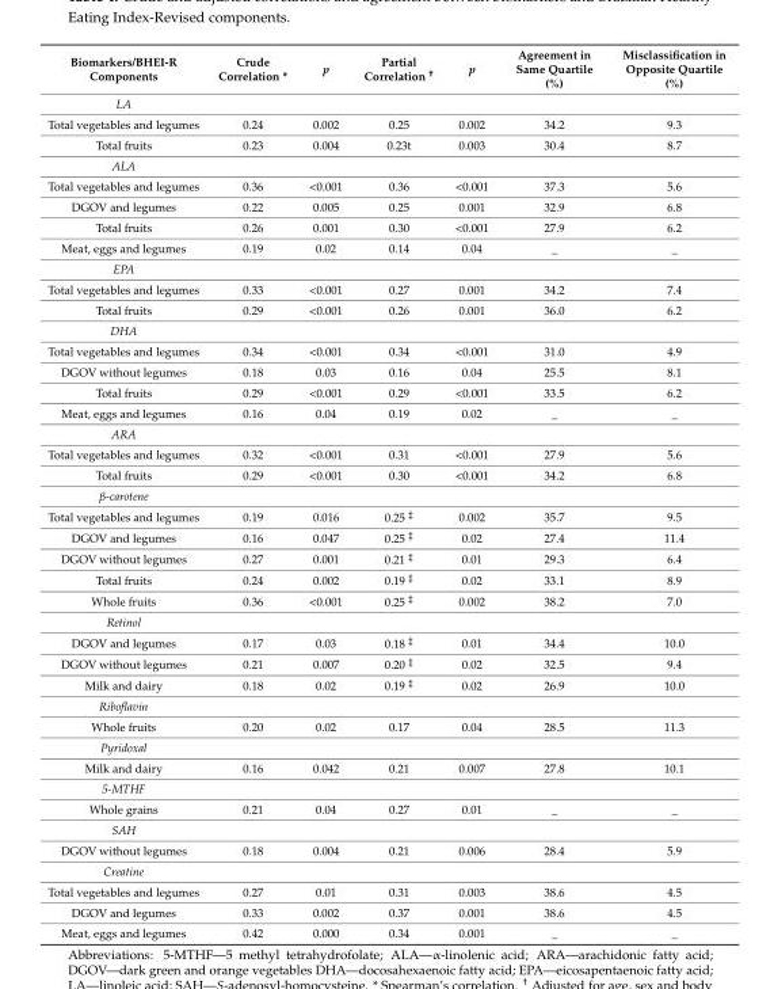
<table><thead><tr><td>Biomarkers/BHEI-R Components</td><td>Crude Correlation *</td><td>p</td><td>Partial Correlation <sup>†</sup></td><td>p</td><td>Agreement in Same Quartile (%)</td><td>Misclassification in Opposite Quartile (%)</td></tr></thead><tbody><tr><td colspan="7">LA</td></tr><tr><td>Total vegetables and legumes</td><td>0.24</td><td>0.002</td><td>0.25</td><td>0.002</td><td>34.2</td><td>9.3</td></tr><tr><td>Total fruits</td><td>0.23</td><td>0.004</td><td>0.23t</td><td>0.003</td><td>30.4</td><td>8.7</td></tr><tr><td colspan="7">ALA</td></tr><tr><td>Total vegetables and legumes</td><td>0.36</td><td>&lt;0.001</td><td>0.36</td><td>&lt;0.001</td><td>37.3</td><td>5.6</td></tr><tr><td>DGOV and legumes</td><td>0.22</td><td>0.005</td><td>0.25</td><td>0.001</td><td>32.9</td><td>6.8</td></tr><tr><td>Total fruits</td><td>0.26</td><td>0.001</td><td>0.30</td><td>&lt;0.001</td><td>27.9</td><td>6.2</td></tr><tr><td>Meat, eggs and legumes</td><td>0.19</td><td>0.02</td><td>0.14</td><td>0.04</td><td>_</td><td>_</td></tr><tr><td colspan="7">EPA</td></tr><tr><td>Total vegetables and legumes</td><td>0.33</td><td>&lt;0.001</td><td>0.27</td><td>0.001</td><td>34.2</td><td>7.4</td></tr><tr><td>Total fruits</td><td>0.29</td><td>&lt;0.001</td><td>0.26</td><td>0.001</td><td>36.0</td><td>6.2</td></tr><tr><td colspan="7">DHA</td></tr><tr><td>Total vegetables and legumes</td><td>0.34</td><td>&lt;0.001</td><td>0.34</td><td>&lt;0.001</td><td>31.0</td><td>4.9</td></tr><tr><td>DGOV without legumes</td><td>0.18</td><td>0.03</td><td>0.16</td><td>0.04</td><td>25.5</td><td>8.1</td></tr><tr><td>Total fruits</td><td>0.29</td><td>&lt;0.001</td><td>0.29</td><td>&lt;0.001</td><td>33.5</td><td>6.2</td></tr><tr><td>Meat, eggs and legumes</td><td>0.16</td><td>0.04</td><td>0.19</td><td>0.02</td><td>_</td><td>_</td></tr><tr><td colspan="7">ARA</td></tr><tr><td>Total vegetables and legumes</td><td>0.32</td><td>&lt;0.001</td><td>0.31</td><td>&lt;0.001</td><td>27.9</td><td>5.6</td></tr><tr><td>Total fruits</td><td>0.29</td><td>&lt;0.001</td><td>0.30</td><td>&lt;0.001</td><td>34.2</td><td>6.8</td></tr><tr><td colspan="7">β-carotene</td></tr><tr><td>Total vegetables and legumes</td><td>0.19</td><td>0.016</td><td>0.25 <sup>‡</sup></td><td>0.002</td><td>35.7</td><td>9.5</td></tr><tr><td>DGOV and legumes</td><td>0.16</td><td>0.047</td><td>0.25 <sup>‡</sup></td><td>0.02</td><td>27.4</td><td>11.4</td></tr><tr><td>DGOV without legumes</td><td>0.27</td><td>0.001</td><td>0.21 <sup>‡</sup></td><td>0.01</td><td>29.3</td><td>6.4</td></tr><tr><td>Total fruits</td><td>0.24</td><td>0.002</td><td>0.19 <sup>‡</sup></td><td>0.02</td><td>33.1</td><td>8.9</td></tr><tr><td>Whole fruits</td><td>0.36</td><td>&lt;0.001</td><td>0.25 <sup>‡</sup></td><td>0.002</td><td>38.2</td><td>7.0</td></tr><tr><td colspan="7">Retinol</td></tr><tr><td>DGOV and legumes</td><td>0.17</td><td>0.03</td><td>0.18 <sup>‡</sup></td><td>0.01</td><td>34.4</td><td>10.0</td></tr><tr><td>DGOV without legumes</td><td>0.21</td><td>0.007</td><td>0.20 <sup>‡</sup></td><td>0.02</td><td>32.5</td><td>9.4</td></tr><tr><td>Milk and dairy</td><td>0.18</td><td>0.02</td><td>0.19 <sup>‡</sup></td><td>0.02</td><td>26.9</td><td>10.0</td></tr><tr><td colspan="7">Riboflavin</td></tr><tr><td>Whole fruits</td><td>0.20</td><td>0.02</td><td>0.17</td><td>0.04</td><td>28.5</td><td>11.3</td></tr><tr><td colspan="7">Pyridoxal</td></tr><tr><td>Milk and dairy</td><td>0.16</td><td>0.042</td><td>0.21</td><td>0.007</td><td>27.8</td><td>10.1</td></tr><tr><td colspan="7">5-MTHF</td></tr><tr><td>Whole grains</td><td>0.21</td><td>0.04</td><td>0.27</td><td>0.01</td><td>_</td><td>_</td></tr><tr><td colspan="7">SAH</td></tr><tr><td>DGOV without legumes</td><td>0.18</td><td>0.004</td><td>0.21</td><td>0.006</td><td>28.4</td><td>5.9</td></tr><tr><td colspan="7">Creatine</td></tr><tr><td>Total vegetables and legumes</td><td>0.27</td><td>0.01</td><td>0.31</td><td>0.003</td><td>38.6</td><td>4.5</td></tr><tr><td>DGOV and legumes</td><td>0.33</td><td>0.002</td><td>0.37</td><td>0.001</td><td>38.6</td><td>4.5</td></tr><tr><td>Meat, eggs and legumes</td><td>0.42</td><td>0.000</td><td>0.34</td><td>0.001</td><td>_</td><td>_</td></tr></tbody></table>